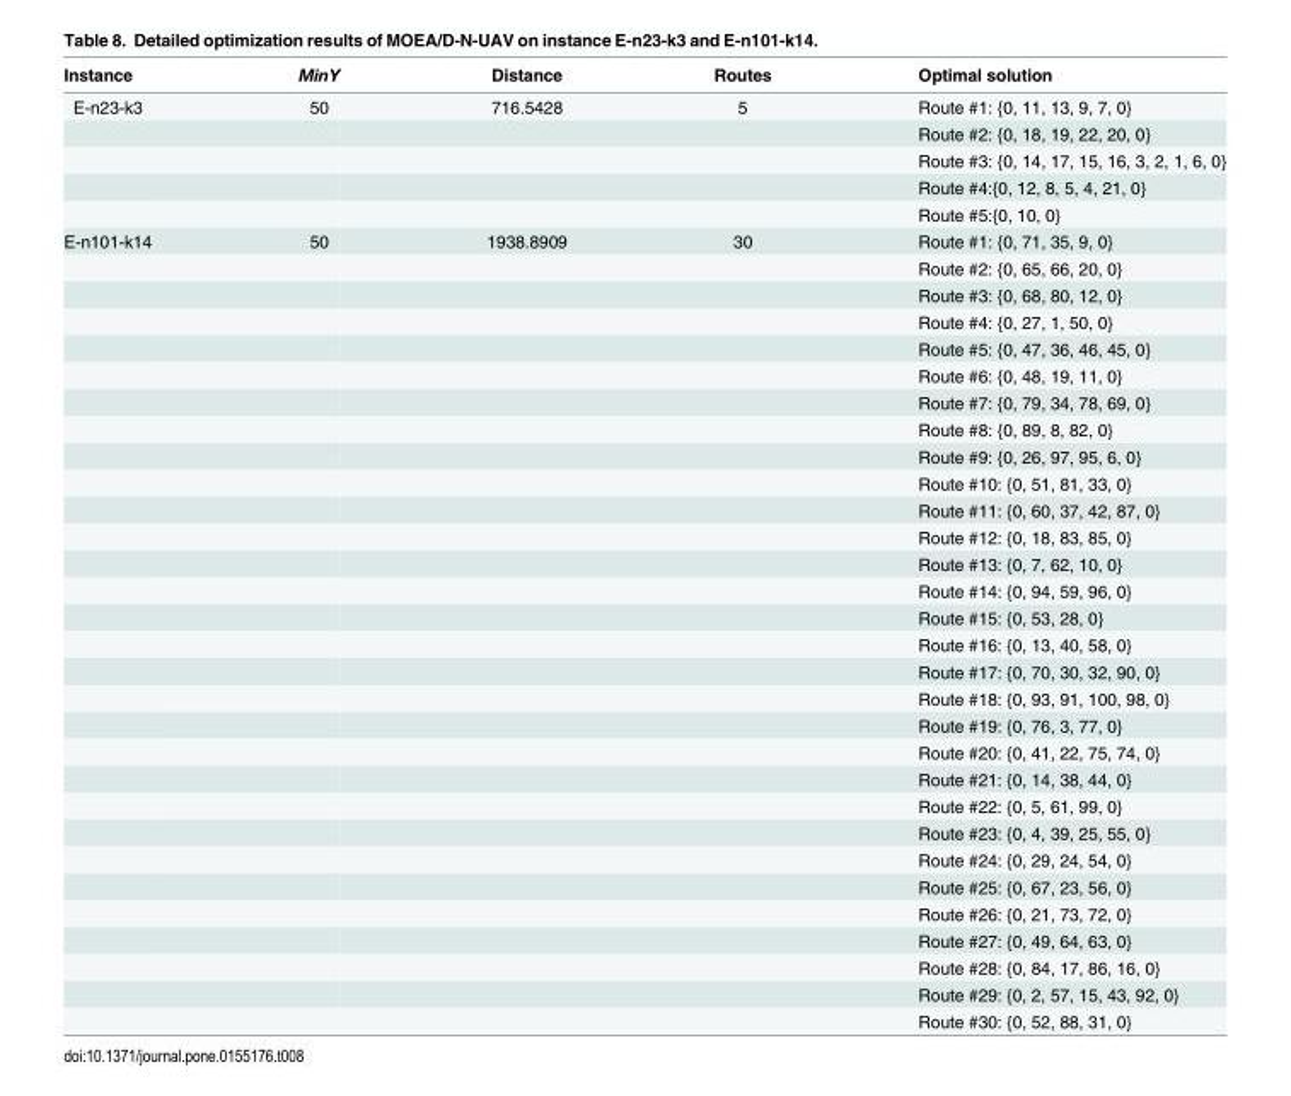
<table><thead><tr><td>Instance</td><td>MinY</td><td>Distance</td><td>Routes</td><td>Optimal solution</td></tr></thead><tbody><tr><td rowspan="5">E-n23-k3</td><td>50</td><td>716.5428</td><td>5</td><td>Route #1: {0, 11, 13, 9, 7, 0}</td></tr><tr><td></td><td></td><td></td><td>Route #2: {0, 18, 19, 22, 20, 0}</td></tr><tr><td></td><td></td><td></td><td>Route #3: {0, 14, 17, 15, 16, 3, 2, 1, 6, 0}</td></tr><tr><td></td><td></td><td></td><td>Route #4:{0, 12, 8, 5, 4, 21, 0}</td></tr><tr><td></td><td></td><td></td><td>Route #5:{0, 10, 0}</td></tr><tr><td rowspan="30">E-n101-k14</td><td>50</td><td>1938.8909</td><td>30</td><td>Route #1: {0, 71, 35, 9, 0}</td></tr><tr><td></td><td></td><td></td><td>Route #2: {0, 65, 66, 20, 0}</td></tr><tr><td></td><td></td><td></td><td>Route #3: {0, 68, 80, 12, 0}</td></tr><tr><td></td><td></td><td></td><td>Route #4: {0, 27, 1, 50, 0}</td></tr><tr><td></td><td></td><td></td><td>Route #5: {0, 47, 36, 46, 45, 0}</td></tr><tr><td></td><td></td><td></td><td>Route #6: {0, 48, 19, 11, 0}</td></tr><tr><td></td><td></td><td></td><td>Route #7: {0, 79, 34, 78, 69, 0}</td></tr><tr><td></td><td></td><td></td><td>Route #8: {0, 89, 8, 82, 0}</td></tr><tr><td></td><td></td><td></td><td>Route #9: {0, 26, 97, 95, 6, 0}</td></tr><tr><td></td><td></td><td></td><td>Route #10: {0, 51, 81, 33, 0}</td></tr><tr><td></td><td></td><td></td><td>Route #11: {0, 60, 37, 42, 87, 0}</td></tr><tr><td></td><td></td><td></td><td>Route #12: {0, 18, 83, 85, 0}</td></tr><tr><td></td><td></td><td></td><td>Route #13: {0, 7, 62, 10, 0}</td></tr><tr><td></td><td></td><td></td><td>Route #14: {0, 94, 59, 96, 0}</td></tr><tr><td></td><td></td><td></td><td>Route #15: {0, 53, 28, 0}</td></tr><tr><td></td><td></td><td></td><td>Route #16: {0, 13, 40, 58, 0}</td></tr><tr><td></td><td></td><td></td><td>Route #17: {0, 70, 30, 32, 90, 0}</td></tr><tr><td></td><td></td><td></td><td>Route #18: {0, 93, 91, 100, 98, 0}</td></tr><tr><td></td><td></td><td></td><td>Route #19: {0, 76, 3, 77, 0}</td></tr><tr><td></td><td></td><td></td><td>Route #20: {0, 41, 22, 75, 74, 0}</td></tr><tr><td></td><td></td><td></td><td>Route #21: {0, 14, 38, 44, 0}</td></tr><tr><td></td><td></td><td></td><td>Route #22: {0, 5, 61, 99, 0}</td></tr><tr><td></td><td></td><td></td><td>Route #23: {0, 4, 39, 25, 55, 0}</td></tr><tr><td></td><td></td><td></td><td>Route #24: {0, 29, 24, 54, 0}</td></tr><tr><td></td><td></td><td></td><td>Route #25: {0, 67, 23, 56, 0}</td></tr><tr><td></td><td></td><td></td><td>Route #26: {0, 21, 73, 72, 0}</td></tr><tr><td></td><td></td><td></td><td>Route #27: {0, 49, 64, 63, 0}</td></tr><tr><td></td><td></td><td></td><td>Route #28: {0, 84, 17, 86, 16, 0}</td></tr><tr><td></td><td></td><td></td><td>Route #29: {0, 2, 57, 15, 43, 92, 0}</td></tr><tr><td></td><td></td><td></td><td>Route #30: {0, 52, 88, 31, 0}</td></tr></tbody></table>